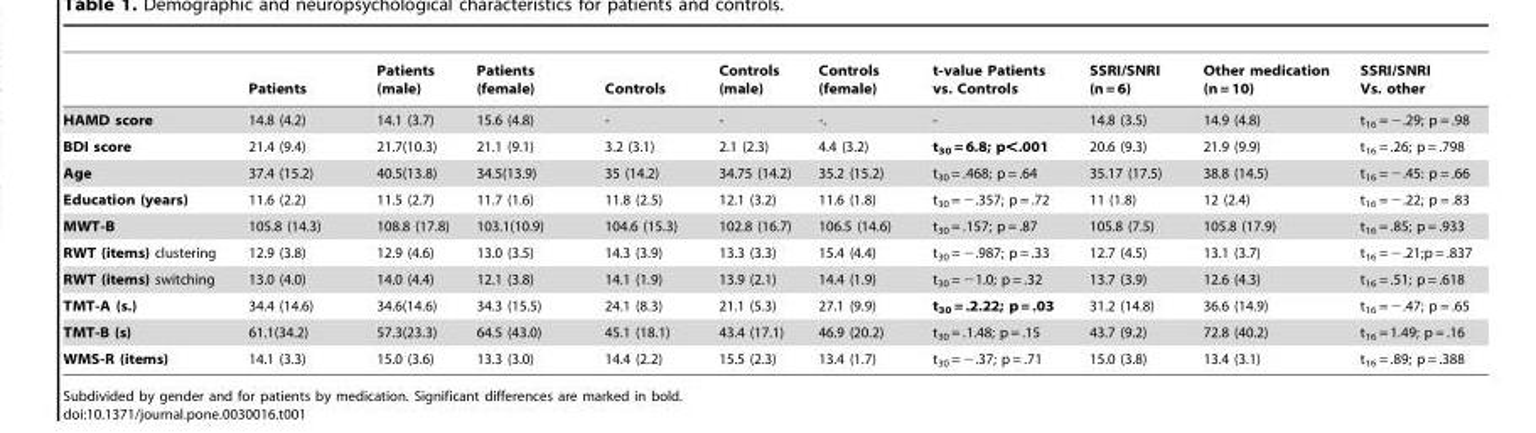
<table><thead><tr><td></td><td>Patients</td><td>Patients (male)</td><td>Patients (female)</td><td>Controls</td><td>Controls (male)</td><td>Controls (female)</td><td>t-value Patients vs. Controls</td><td>SSRI/SNRI (n = 6)</td><td>Other medication (n = 10)</td><td>SSRI/SNRI Vs. other</td></tr></thead><tbody><tr><td>HAMD score</td><td>14.8 (4.2)</td><td>14.1 (3.7)</td><td>15.6 (4.8)</td><td>-</td><td>-</td><td>-.</td><td>-</td><td>14.8 (3.5)</td><td>14.9 (4.8)</td><td>t<sub>16</sub> = −.29; p = .98</td></tr><tr><td>BDI score</td><td>21.4 (9.4)</td><td>21.7(10.3)</td><td>21.1 (9.1)</td><td>3.2 (3.1)</td><td>2.1 (2.3)</td><td>4.4 (3.2)</td><td>t<sub>30</sub> = 6.8; p&lt;.001</td><td>20.6 (9.3)</td><td>21.9 (9.9)</td><td>t<sub>16</sub> = .26; p = .798</td></tr><tr><td>Age</td><td>37.4 (15.2)</td><td>40.5(13.8)</td><td>34.5(13.9)</td><td>35 (14.2)</td><td>34.75 (14.2)</td><td>35.2 (15.2)</td><td>t<sub>30</sub> = .468; p = .64</td><td>35.17 (17.5)</td><td>38.8 (14.5)</td><td>t<sub>16</sub> = −.45: p = .66</td></tr><tr><td>Education (years)</td><td>11.6 (2.2)</td><td>11.5 (2.7)</td><td>11.7 (1.6)</td><td>11.8 (2.5)</td><td>12.1 (3.2)</td><td>11.6 (1.8)</td><td>t<sub>30</sub> = −.357; p = .72</td><td>11 (1.8)</td><td>12 (2.4)</td><td>t<sub>16</sub> = −.22; p = .83</td></tr><tr><td>MWT-B</td><td>105.8 (14.3)</td><td>108.8 (17.8)</td><td>103.1(10.9)</td><td>104.6 (15.3)</td><td>102.8 (16.7)</td><td>106.5 (14.6)</td><td>t<sub>30</sub> = .157; p = .87</td><td>105.8 (7.5)</td><td>105.8 (17.9)</td><td>t<sub>16</sub> = .85; p = .933</td></tr><tr><td>RWT (items) clustering</td><td>12.9 (3.8)</td><td>12.9 (4.6)</td><td>13.0 (3.5)</td><td>14.3 (3.9)</td><td>13.3 (3.3)</td><td>15.4 (4.4)</td><td>t<sub>30</sub> = −.987; p = .33</td><td>12.7 (4.5)</td><td>13.1 (3.7)</td><td>t<sub>16</sub> = −.21;p = .837</td></tr><tr><td>RWT (items) switching</td><td>13.0 (4.0)</td><td>14.0 (4.4)</td><td>12.1 (3.8)</td><td>14.1 (1.9)</td><td>13.9 (2.1)</td><td>14.4 (1.9)</td><td>t<sub>30</sub> = −1.0; p = .32</td><td>13.7 (3.9)</td><td>12.6 (4.3)</td><td>t<sub>16</sub> = .51; p = .618</td></tr><tr><td>TMT-A (s.)</td><td>34.4 (14.6)</td><td>34.6(14.6)</td><td>34.3 (15.5)</td><td>24.1 (8.3)</td><td>21.1 (5.3)</td><td>27.1 (9.9)</td><td>t<sub>30</sub> = .2.22; p = .03</td><td>31.2 (14.8)</td><td>36.6 (14.9)</td><td>t<sub>16</sub> = −.47; p = .65</td></tr><tr><td>TMT-B (s)</td><td>61.1(34.2)</td><td>57.3(23.3)</td><td>64.5 (43.0)</td><td>45.1 (18.1)</td><td>43.4 (17.1)</td><td>46.9 (20.2)</td><td>t<sub>30</sub> = .1.48; p = .15</td><td>43.7 (9.2)</td><td>72.8 (40.2)</td><td>t<sub>16</sub> = 1.49; p = .16</td></tr><tr><td>WMS-R (items)</td><td>14.1 (3.3)</td><td>15.0 (3.6)</td><td>13.3 (3.0)</td><td>14.4 (2.2)</td><td>15.5 (2.3)</td><td>13.4 (1.7)</td><td>t<sub>30</sub> = −.37; p = .71</td><td>15.0 (3.8)</td><td>13.4 (3.1)</td><td>t<sub>16</sub> = .89; p = .388</td></tr></tbody></table>